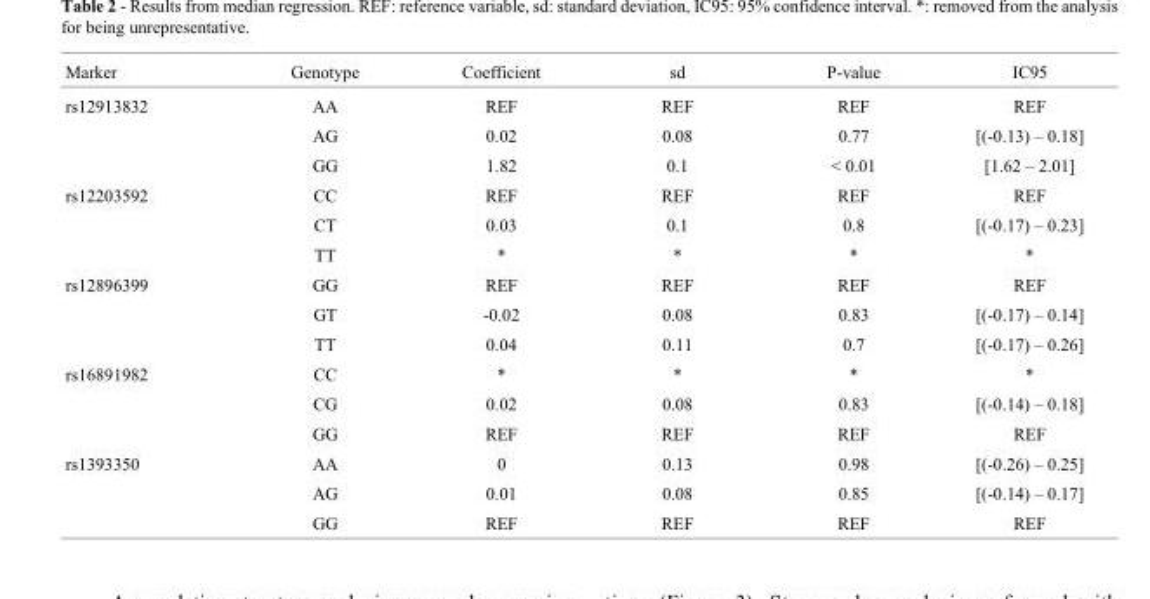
<table><thead><tr><td>Marker</td><td>Genotype</td><td>Coefficient</td><td>sd</td><td>P-value</td><td>IC95</td></tr></thead><tbody><tr><td rowspan="3">rs12913832</td><td>AA</td><td>REF</td><td>REF</td><td>REF</td><td>REF</td></tr><tr><td>AG</td><td>0.02</td><td>0.08</td><td>0.77</td><td>[(-0.13) – 0.18]</td></tr><tr><td>GG</td><td>1.82</td><td>0.1</td><td>&lt; 0.01</td><td>[1.62 – 2.01]</td></tr><tr><td rowspan="3">rs12203592</td><td>CC</td><td>REF</td><td>REF</td><td>REF</td><td>REF</td></tr><tr><td>CT</td><td>0.03</td><td>0.1</td><td>0.8</td><td>[(-0.17) – 0.23]</td></tr><tr><td>TT</td><td>*</td><td>*</td><td>*</td><td>*</td></tr><tr><td rowspan="3">rs12896399</td><td>GG</td><td>REF</td><td>REF</td><td>REF</td><td>REF</td></tr><tr><td>GT</td><td>-0.02</td><td>0.08</td><td>0.83</td><td>[(-0.17) – 0.14]</td></tr><tr><td>TT</td><td>0.04</td><td>0.11</td><td>0.7</td><td>[(-0.17) – 0.26]</td></tr><tr><td rowspan="3">rs16891982</td><td>CC</td><td>*</td><td>*</td><td>*</td><td>*</td></tr><tr><td>CG</td><td>0.02</td><td>0.08</td><td>0.83</td><td>[(-0.14) – 0.18]</td></tr><tr><td>GG</td><td>REF</td><td>REF</td><td>REF</td><td>REF</td></tr><tr><td rowspan="3">rs1393350</td><td>AA</td><td>0</td><td>0.13</td><td>0.98</td><td>[(-0.26) – 0.25]</td></tr><tr><td>AG</td><td>0.01</td><td>0.08</td><td>0.85</td><td>[(-0.14) – 0.17]</td></tr><tr><td>GG</td><td>REF</td><td>REF</td><td>REF</td><td>REF</td></tr></tbody></table>